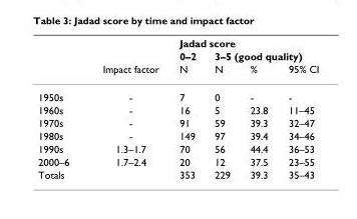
<table><thead><tr><td rowspan="3"></td><td rowspan="3">Impact factor</td><td colspan="4">Jadad score</td></tr><tr><td rowspan="2">0–2 N</td><td colspan="3">3–5 (good quality)</td></tr><tr><td>N</td><td>%</td><td>95% CI</td></tr></thead><tbody><tr><td>1950s</td><td>-</td><td>7</td><td>0</td><td>-</td><td>-</td></tr><tr><td>1960s</td><td>-</td><td>16</td><td>5</td><td>23.8</td><td>11–45</td></tr><tr><td>1970s</td><td>-</td><td>91</td><td>59</td><td>39.3</td><td>32–47</td></tr><tr><td>1980s</td><td>-</td><td>149</td><td>97</td><td>39.4</td><td>34–46</td></tr><tr><td>1990s</td><td>1.3–1.7</td><td>70</td><td>56</td><td>44.4</td><td>36–53</td></tr><tr><td>2000–6</td><td>1.7–2.4</td><td>20</td><td>12</td><td>37.5</td><td>23–55</td></tr><tr><td>Totals</td><td></td><td>353</td><td>229</td><td>39.3</td><td>35–43</td></tr></tbody></table>